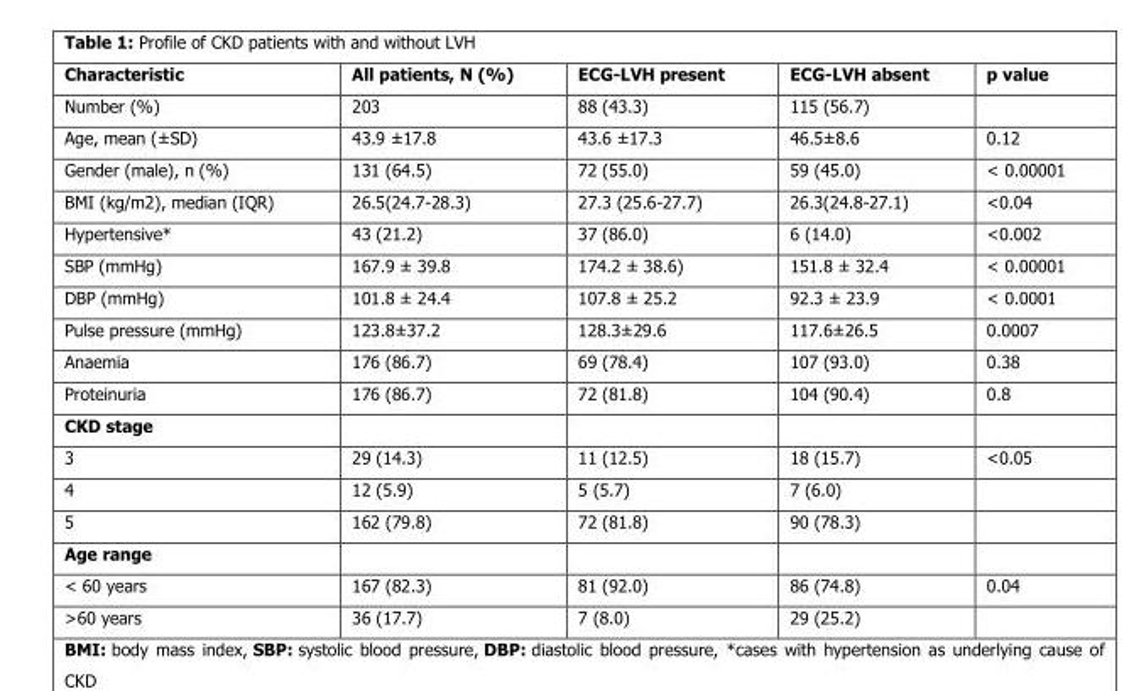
<table><thead><tr><td>Characteristic</td><td>All patients, N (%)</td><td>ECG-LVH present</td><td>ECG-LVH absent</td><td>p value</td></tr></thead><tbody><tr><td>Number (%)</td><td>203</td><td>88 (43.3)</td><td>115 (56.7)</td><td></td></tr><tr><td>Age, mean (±SD)</td><td>43.9 ±17.8</td><td>43.6 ±17.3</td><td>46.5±8.6</td><td>0.12</td></tr><tr><td>Gender (male), n (%)</td><td>131 (64.5)</td><td>72 (55.0)</td><td>59 (45.0)</td><td>&lt; 0.00001</td></tr><tr><td>BMI (kg/m2), median (IQR)</td><td>26.5(24.7-28.3)</td><td>27.3 (25.6-27.7)</td><td>26.3(24.8-27.1)</td><td>&lt;0.04</td></tr><tr><td>Hypertensive*</td><td>43 (21.2)</td><td>37 (86.0)</td><td>6 (14.0)</td><td>&lt;0.002</td></tr><tr><td>SBP (mmHg)</td><td>167.9 ± 39.8</td><td>174.2 ± 38.6)</td><td>151.8 ± 32.4</td><td>&lt; 0.00001</td></tr><tr><td>DBP (mmHg)</td><td>101.8 ± 24.4</td><td>107.8 ± 25.2</td><td>92.3 ± 23.9</td><td>&lt; 0.0001</td></tr><tr><td>Pulse pressure (mmHg)</td><td>123.8±37.2</td><td>128.3±29.6</td><td>117.6±26.5</td><td>0.0007</td></tr><tr><td>Anaemia</td><td>176 (86.7)</td><td>69 (78.4)</td><td>107 (93.0)</td><td>0.38</td></tr><tr><td>Proteinuria</td><td>176 (86.7)</td><td>72 (81.8)</td><td>104 (90.4)</td><td>0.8</td></tr><tr><td colspan="5">CKD stage</td></tr><tr><td>3</td><td>29 (14.3)</td><td>11 (12.5)</td><td>18 (15.7)</td><td>&lt;0.05</td></tr><tr><td>4</td><td>12 (5.9)</td><td>5 (5.7)</td><td>7 (6.0)</td><td></td></tr><tr><td>5</td><td>162 (79.8)</td><td>72 (81.8)</td><td>90 (78.3)</td><td></td></tr><tr><td colspan="5">Age range</td></tr><tr><td>&lt; 60 years</td><td>167 (82.3)</td><td>81 (92.0)</td><td>86 (74.8)</td><td>0.04</td></tr><tr><td>&gt;60 years</td><td>36 (17.7)</td><td>7 (8.0)</td><td>29 (25.2)</td><td></td></tr></tbody></table>